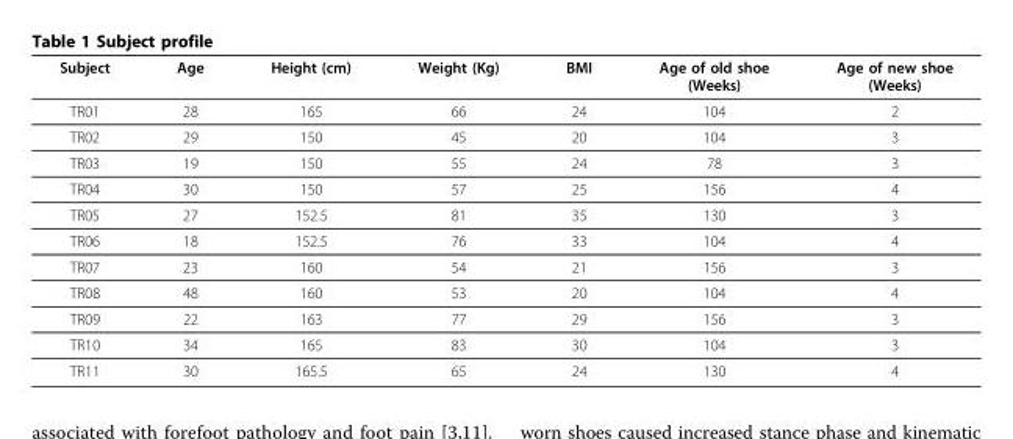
<table><thead><tr><td>Subject</td><td>Age</td><td>Height (cm)</td><td>Weight (Kg)</td><td>BMI</td><td>Age of old shoe (Weeks)</td><td>Age of new shoe (Weeks)</td></tr></thead><tbody><tr><td>TR01</td><td>28</td><td>165</td><td>66</td><td>24</td><td>104</td><td>2</td></tr><tr><td>TR02</td><td>29</td><td>150</td><td>45</td><td>20</td><td>104</td><td>3</td></tr><tr><td>TR03</td><td>19</td><td>150</td><td>55</td><td>24</td><td>78</td><td>3</td></tr><tr><td>TR04</td><td>30</td><td>150</td><td>57</td><td>25</td><td>156</td><td>4</td></tr><tr><td>TR05</td><td>27</td><td>152.5</td><td>81</td><td>35</td><td>130</td><td>3</td></tr><tr><td>TR06</td><td>18</td><td>152.5</td><td>76</td><td>33</td><td>104</td><td>4</td></tr><tr><td>TR07</td><td>23</td><td>160</td><td>54</td><td>21</td><td>156</td><td>3</td></tr><tr><td>TR08</td><td>48</td><td>160</td><td>53</td><td>20</td><td>104</td><td>4</td></tr><tr><td>TR09</td><td>22</td><td>163</td><td>77</td><td>29</td><td>156</td><td>3</td></tr><tr><td>TR10</td><td>34</td><td>165</td><td>83</td><td>30</td><td>104</td><td>3</td></tr><tr><td>TR11</td><td>30</td><td>165.5</td><td>65</td><td>24</td><td>130</td><td>4</td></tr></tbody></table>